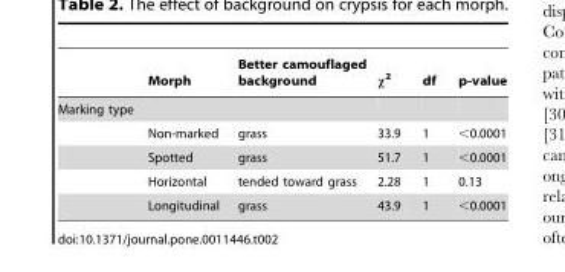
<table><thead><tr><td></td><td>Morph</td><td>Better camouflaged background</td><td>χ<sup>2</sup></td><td>df</td><td>p-value</td></tr></thead><tbody><tr><td colspan="6">Marking type</td></tr><tr><td></td><td>Non-marked</td><td>grass</td><td>33.9</td><td>1</td><td>&lt;0.0001</td></tr><tr><td></td><td>Spotted</td><td>grass</td><td>51.7</td><td>1</td><td>&lt;0.0001</td></tr><tr><td></td><td>Horizontal</td><td>tended toward grass</td><td>2.28</td><td>1</td><td>0.13</td></tr><tr><td></td><td>Longitudinal</td><td>grass</td><td>43.9</td><td>1</td><td>&lt;0.0001</td></tr></tbody></table>